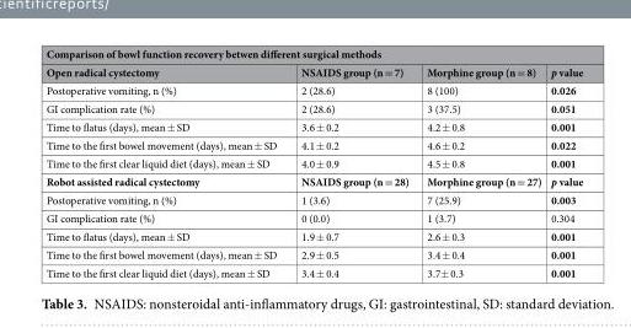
<table><thead><tr><td colspan="4">Comparison of bowl function recovery betwen different surgical methods</td></tr><tr><td>Open radical cystectomy</td><td>NSAIDS group (n = 7)</td><td>Morphine group (n = 8)</td><td>p value</td></tr></thead><tbody><tr><td>Postoperative vomiting, n (%)</td><td>2 (28.6)</td><td>8 (100)</td><td>0.026</td></tr><tr><td>GI complication rate (%)</td><td>2 (28.6)</td><td>3 (37.5)</td><td>0.051</td></tr><tr><td>Time to flatus (days), mean ± SD</td><td>3.6 ± 0.2</td><td>4.2 ± 0.8</td><td>0.001</td></tr><tr><td>Time to the first bowel movement (days), mean ± SD</td><td>4.1 ± 0.2</td><td>4.6 ± 0.2</td><td>0.022</td></tr><tr><td>Time to the first clear liquid diet (days), mean ± SD</td><td>4.0 ± 0.9</td><td>4.5 ± 0.8</td><td>0.001</td></tr><tr><td>Robot assisted radical cystectomy</td><td>NSAIDS group (n = 28)</td><td>Morphine group (n = 27)</td><td>p value</td></tr><tr><td>Postoperative vomiting, n (%)</td><td>1 (3.6)</td><td>7 (25.9)</td><td>0.003</td></tr><tr><td>GI complication rate (%)</td><td>0 (0.0)</td><td>1 (3.7)</td><td>0.304</td></tr><tr><td>Time to flatus (days), mean ± SD</td><td>1.9 ± 0.7</td><td>2.6 ± 0.3</td><td>0.001</td></tr><tr><td>Time to the first bowel movement (days), mean ± SD</td><td>2.9 ± 0.5</td><td>3.4 ± 0.4</td><td>0.001</td></tr><tr><td>Time to the first clear liquid diet (days), mean ± SD</td><td>3.4 ± 0.4</td><td>3.7± 0.3</td><td>0.001</td></tr></tbody></table>